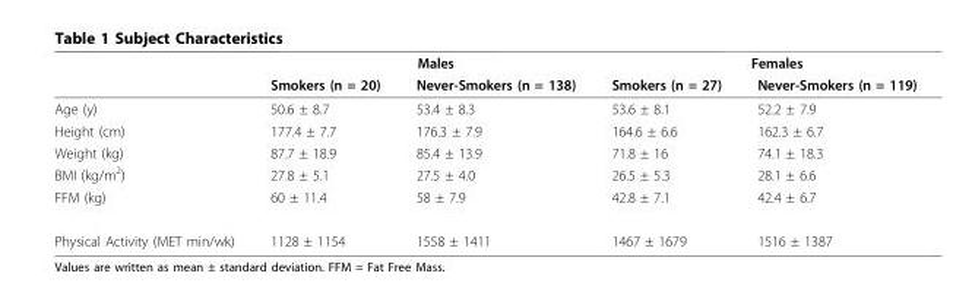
<table><thead><tr><td rowspan="2"></td><td colspan="2">Males</td><td colspan="2">Females</td></tr><tr><td>Smokers (n = 20)</td><td>Never-Smokers (n = 138)</td><td>Smokers (n = 27)</td><td>Never-Smokers (n = 119)</td></tr></thead><tbody><tr><td>Age (y)</td><td>50.6 ± 8.7</td><td>53.4 ± 8.3</td><td>53.6 ± 8.1</td><td>52.2 ± 7.9</td></tr><tr><td>Height (cm)</td><td>177.4 ± 7.7</td><td>176.3 ± 7.9</td><td>164.6 ± 6.6</td><td>162.3 ± 6.7</td></tr><tr><td>Weight (kg)</td><td>87.7 ± 18.9</td><td>85.4 ± 13.9</td><td>71.8 ± 16</td><td>74.1 ± 18.3</td></tr><tr><td>BMI (kg/m<sup>2</sup>)</td><td>27.8 ± 5.1</td><td>27.5 ± 4.0</td><td>26.5 ± 5.3</td><td>28.1 ± 6.6</td></tr><tr><td>FFM (kg)</td><td>60 ± 11.4</td><td>58 ± 7.9</td><td>42.8 ± 7.1</td><td>42.4 ± 6.7</td></tr><tr><td>Physical Activity (MET min/wk)</td><td>1128 ± 1154</td><td>1558 ± 1411</td><td>1467 ± 1679</td><td>1516 ± 1387</td></tr></tbody></table>